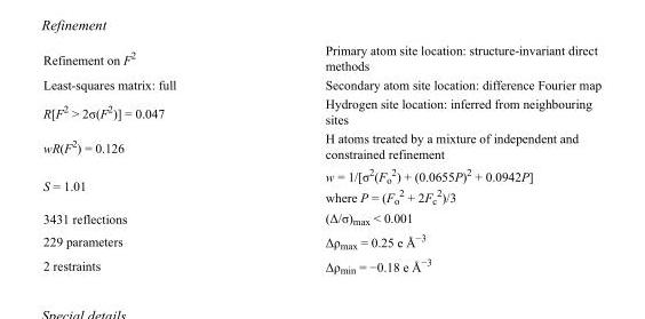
<table><tbody><tr><td>Refinement on F<sup>2</sup></td><td>Primary atom site location: structure-invariant direct methods</td></tr><tr><td>Least-squares matrix: full</td><td>Secondary atom site location: difference Fourier map</td></tr><tr><td>R[F<sup>2</sup> &gt; 2σ(F<sup>2</sup>)] = 0.047</td><td>Hydrogen site location: inferred from neighbouring sites</td></tr><tr><td>wR(F<sup>2</sup>) = 0.126</td><td>H atoms treated by a mixture of independent and constrained refinement</td></tr><tr><td>S = 1.01</td><td>w = 1/[σ<sup>2</sup>(F<sub>o</sub> <sup>2</sup>) + (0.0655P)<sup>2</sup> + 0.0942P] where P = (F<sub>o</sub> <sup>2</sup> + 2F<sub>c</sub> <sup>2</sup>)/3</td></tr><tr><td>3431 reflections</td><td>(Δ/σ)<sub>max</sub> &lt; 0.001</td></tr><tr><td>229 parameters</td><td>Δρ<sub>max</sub> = 0.25 e Å<sup>−3</sup></td></tr><tr><td>2 restraints</td><td>Δρ<sub>min</sub> = −0.18 e Å<sup>−3</sup></td></tr></tbody></table>